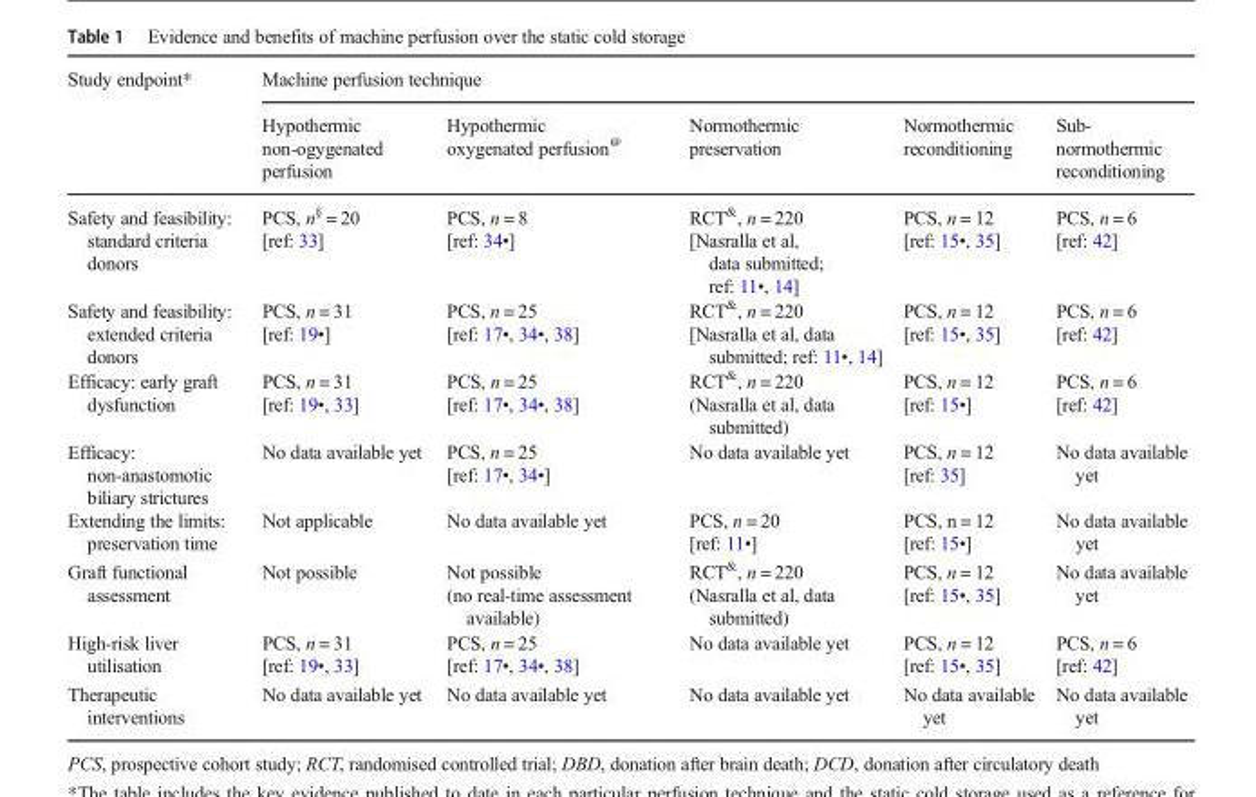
<table><thead><tr><td rowspan="2">Study endpoint*</td><td colspan="5">Machine perfusion technique</td></tr><tr><td>Hypothermic non-ogygenated perfusion</td><td>Hypothermic oxygenated perfusion<sup>@</sup></td><td>Normothermic preservation</td><td>Normothermic reconditioning</td><td>Sub- normothermic reconditioning</td></tr></thead><tbody><tr><td>Safety and feasibility: standard criteria donors</td><td>PCS, n<sup>§</sup> = 20 [ref: 33]</td><td>PCS, n = 8 [ref: 34•]</td><td>RCT<sup>&amp;</sup>, n = 220 [Nasralla et al, data submitted; ref: 11•, 14]</td><td>PCS, n = 12 [ref: 15•, 35]</td><td>PCS, n = 6 [ref: 42]</td></tr><tr><td>Safety and feasibility: extended criteria donors</td><td>PCS, n = 31 [ref: 19•]</td><td>PCS, n = 25 [ref: 17•, 34•, 38]</td><td>RCT<sup>&amp;</sup>, n = 220 [Nasralla et al, data submitted; ref: 11•, 14]</td><td>PCS, n = 12 [ref: 15•, 35]</td><td>PCS, n = 6 [ref: 42]</td></tr><tr><td>Efficacy: early graft dysfunction</td><td>PCS, n = 31 [ref: 19•, 33]</td><td>PCS, n = 25 [ref: 17•, 34•, 38]</td><td>RCT<sup>&amp;</sup>, n = 220 (Nasralla et al, data submitted)</td><td>PCS, n = 12 [ref: 15•]</td><td>PCS, n = 6 [ref: 42]</td></tr><tr><td>Efficacy: non-anastomotic biliary strictures</td><td>No data available yet</td><td>PCS, n = 25 [ref: 17•, 34•]</td><td>No data available yet</td><td>PCS, n = 12 [ref: 35]</td><td>No data available yet</td></tr><tr><td>Extending the limits: preservation time</td><td>Not applicable</td><td>No data available yet</td><td>PCS, n = 20 [ref: 11•]</td><td>PCS, n = 12 [ref: 15•]</td><td>No data available yet</td></tr><tr><td>Graft functional assessment</td><td>Not possible</td><td>Not possible (no real-time assessment available)</td><td>RCT<sup>&amp;</sup>, n = 220 (Nasralla et al, data submitted)</td><td>PCS, n = 12 [ref: 15•, 35]</td><td>No data available yet</td></tr><tr><td>High-risk liver utilisation</td><td>PCS, n = 31 [ref: 19•, 33]</td><td>PCS, n = 25 [ref: 17•, 34•, 38]</td><td>No data available yet</td><td>PCS, n = 12 [ref: 15•, 35]</td><td>PCS, n = 6 [ref: 42]</td></tr><tr><td>Therapeutic interventions</td><td>No data available yet</td><td>No data available yet</td><td>No data available yet</td><td>No data available yet</td><td>No data available yet</td></tr></tbody></table>